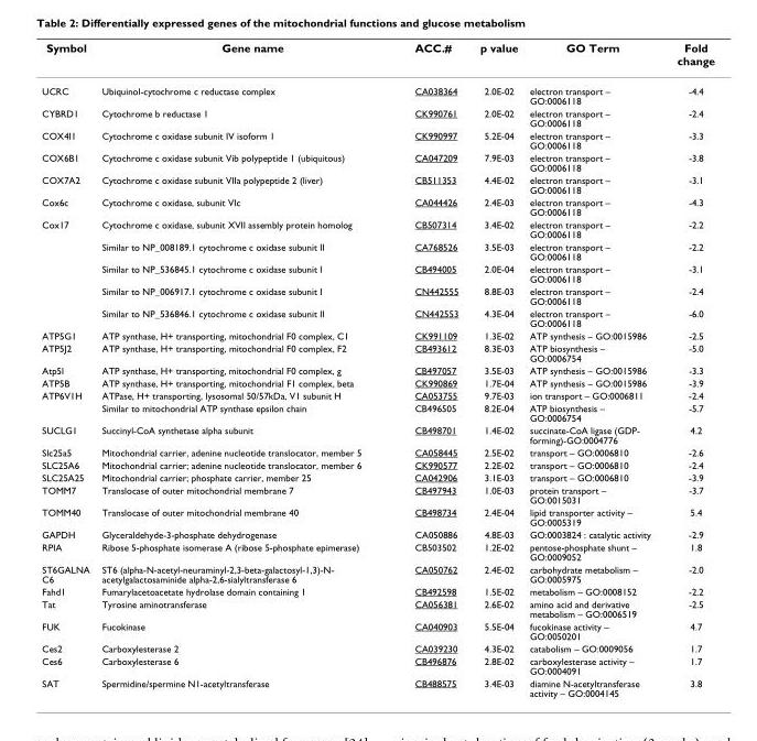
<table><thead><tr><td>Symbol</td><td>Gene name</td><td>ACC.#</td><td>p value</td><td>GO Term</td><td>Fold change</td></tr></thead><tbody><tr><td>UCRC</td><td>Ubiquinol-cytochrome c reductase complex</td><td>CA038364</td><td>2.0E-02</td><td>electron transport – GO:0006118</td><td>-4.4</td></tr><tr><td>CYBRD1</td><td>Cytochrome b reductase 1</td><td>CK990761</td><td>2.0E-02</td><td>electron transport – GO:0006118</td><td>-2.4</td></tr><tr><td>COX4I1</td><td>Cytochrome c oxidase subunit IV isoform 1</td><td>CK990997</td><td>5.2E-04</td><td>electron transport – GO:0006118</td><td>-3.3</td></tr><tr><td>COX6B1</td><td>Cytochrome c oxidase subunit Vib polypeptide 1 (ubiquitous)</td><td>CA047209</td><td>7.9E-03</td><td>electron transport – GO:0006118</td><td>-3.8</td></tr><tr><td>COX7A2</td><td>Cytochrome c oxidase subunit VIIa polypeptide 2 (liver)</td><td>CB511353</td><td>4.4E-02</td><td>electron transport – GO:0006118</td><td>-3.1</td></tr><tr><td>Cox6c</td><td>Cytochrome c oxidase, subunit VIc</td><td>CA044426</td><td>2.4E-03</td><td>electron transport – GO:0006118</td><td>-4.3</td></tr><tr><td rowspan="5">Cox17</td><td>Cytochrome c oxidase, subunit XVII assembly protein homolog</td><td>CB507314</td><td>3.4E-02</td><td>electron transport – GO:0006118</td><td>-2.2</td></tr><tr><td>Similar to NP_008189.1 cytochrome c oxidase subunit II</td><td>CA768526</td><td>3.5E-03</td><td>electron transport – GO:0006118</td><td>-2.2</td></tr><tr><td>Similar to NP_536845.1 cytochrome c oxidase subunit I</td><td>CB494005</td><td>2.0E-04</td><td>electron transport – GO:0006118</td><td>-3.1</td></tr><tr><td>Similar to NP_006917.1 cytochrome c oxidase subunit I</td><td>CN442555</td><td>8.8E-03</td><td>electron transport – GO:0006118</td><td>-2.4</td></tr><tr><td>Similar to NP_536846.1 cytochrome c oxidase subunit II</td><td>CN442553</td><td>4.3E-04</td><td>electron transport – GO:0006118</td><td>-6.0</td></tr><tr><td>ATP5G1</td><td>ATP synthase, H+ transporting, mitochondrial F0 complex, C1</td><td>CK991109</td><td>1.3E-02</td><td>ATP synthesis – GO:0015986</td><td>-2.5</td></tr><tr><td>ATP5J2</td><td>ATP synthase, H+ transporting, mitochondrial F0 complex, F2</td><td>CB493612</td><td>8.3E-03</td><td>ATP biosynthesis – GO:0006754</td><td>-5.0</td></tr><tr><td>Atp5l</td><td>ATP synthase, H+ transporting, mitochondrial F0 complex, g</td><td>CB497057</td><td>3.5E-03</td><td>ATP synthesis – GO:0015986</td><td>-3.3</td></tr><tr><td>ATP5B</td><td>ATP synthase, H+ transporting, mitochondrial F1 complex, beta</td><td>CK990869</td><td>1.7E-04</td><td>ATP synthesis – GO:0015986</td><td>-3.9</td></tr><tr><td rowspan="2">ATP6V1H</td><td>ATPase, H+ transporting, lysosomal 50/57kDa, V1 subunit H</td><td>CA053755</td><td>9.7E-03</td><td>ion transport – GO:0006811</td><td>-2.4</td></tr><tr><td>Similar to mitochondrial ATP synthase epsilon chain</td><td>CB496505</td><td>8.2E-04</td><td>ATP biosynthesis – GO:0006754</td><td>-5.7</td></tr><tr><td>SUCLG1</td><td>Succinyl-CoA synthetase alpha subunit</td><td>CB498701</td><td>1.4E-02</td><td>succinate-CoA ligase (GDP- forming)-GO:0004776</td><td>4.2</td></tr><tr><td>Slc25a5</td><td>Mitochondrial carrier, adenine nucleotide translocator, member 5</td><td>CA058445</td><td>2.5E-02</td><td>transport – GO:0006810</td><td>-2.6</td></tr><tr><td>SLC25A6</td><td>Mitochondrial carrier; adenine nucleotide translocator, member 6</td><td>CK990577</td><td>2.2E-02</td><td>transport – GO:0006810</td><td>-2.4</td></tr><tr><td>SLC25A25</td><td>Mitochondrial carrier; phosphate carrier, member 25</td><td>CA042906</td><td>3.1E-03</td><td>transport – GO:0006810</td><td>-3.9</td></tr><tr><td>TOMM7</td><td>Translocase of outer mitochondrial membrane 7</td><td>CB497943</td><td>1.0E-03</td><td>protein transport – GO:0015031</td><td>-3.7</td></tr><tr><td>TOMM40</td><td>Translocase of outer mitochondrial membrane 40</td><td>CB498734</td><td>2.4E-04</td><td>lipid transporter activity – GO:0005319</td><td>5.4</td></tr><tr><td>GAPDH</td><td>Glyceraldehyde-3-phosphate dehydrogenase</td><td>CA050886</td><td>4.8E-03</td><td>GO:0003824 : catalytic activity</td><td>-2.9</td></tr><tr><td>RPIA</td><td>Ribose 5-phosphate isomerase A (ribose 5-phosphate epimerase)</td><td>CB503502</td><td>1.2E-02</td><td>pentose-phosphate shunt – GO:0009052</td><td>1.8</td></tr><tr><td>ST6GALNA C6</td><td>ST6 (alpha-N-acetyl-neuraminyl-2,3-beta-galactosyl-1,3)-N- acetylgalactosaminide alpha-2,6-sialyltransferase 6</td><td>CA050762</td><td>2.4E-02</td><td>carbohydrate metabolism – GO:0005975</td><td>-2.0</td></tr><tr><td>Fahd1</td><td>Fumarylacetoacetate hydrolase domain containing 1</td><td>CB492598</td><td>1.5E-02</td><td>metabolism – GO:0008152</td><td>-2.2</td></tr><tr><td>Tat</td><td>Tyrosine aminotransferase</td><td>CA056381</td><td>2.6E-02</td><td>amino acid and derivative metabolism – GO:0006519</td><td>-2.5</td></tr><tr><td>FUK</td><td>Fucokinase</td><td>CA040903</td><td>5.5E-04</td><td>fucokinase activity – GO:0050201</td><td>4.7</td></tr><tr><td>Ces2</td><td>Carboxylesterase 2</td><td>CA039230</td><td>4.3E-02</td><td>catabolism – GO:0009056</td><td>1.7</td></tr><tr><td>Ces6</td><td>Carboxylesterase 6</td><td>CB496876</td><td>2.8E-02</td><td>carboxylesterase activity – GO:0004091</td><td>1.7</td></tr><tr><td>SAT</td><td>Spermidine/spermine N1-acetyltransferase</td><td>CB488575</td><td>3.4E-03</td><td>diamine N-acetyltransferase activity – GO:0004145</td><td>3.8</td></tr></tbody></table>